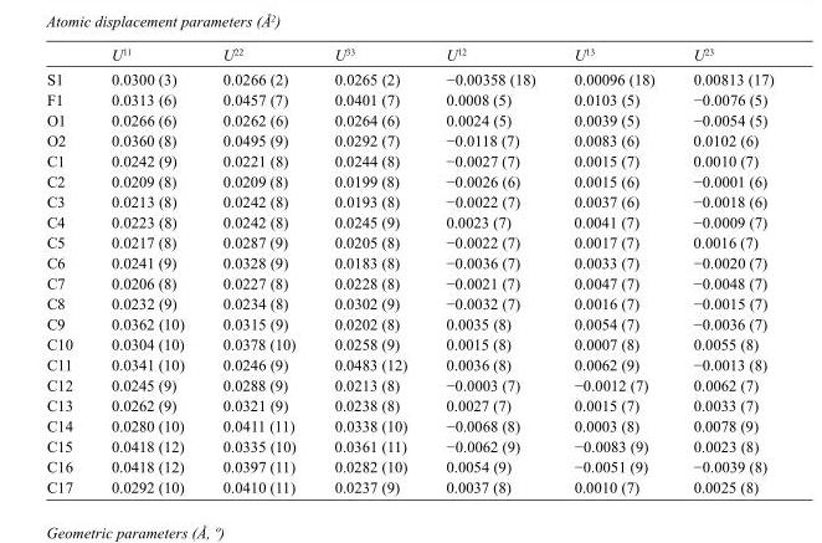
<table><thead><tr><td></td><td>U<sup>11</sup></td><td>U<sup>22</sup></td><td>U<sup>33</sup></td><td>U<sup>12</sup></td><td>U<sup>13</sup></td><td>U<sup>23</sup></td></tr></thead><tbody><tr><td>S1</td><td>0.0300 (3)</td><td>0.0266 (2)</td><td>0.0265 (2)</td><td>−0.00358 (18)</td><td>0.00096 (18)</td><td>0.00813 (17)</td></tr><tr><td>F1</td><td>0.0313 (6)</td><td>0.0457 (7)</td><td>0.0401 (7)</td><td>0.0008 (5)</td><td>0.0103 (5)</td><td>−0.0076 (5)</td></tr><tr><td>O1</td><td>0.0266 (6)</td><td>0.0262 (6)</td><td>0.0264 (6)</td><td>0.0024 (5)</td><td>0.0039 (5)</td><td>−0.0054 (5)</td></tr><tr><td>O2</td><td>0.0360 (8)</td><td>0.0495 (9)</td><td>0.0292 (7)</td><td>−0.0118 (7)</td><td>0.0083 (6)</td><td>0.0102 (6)</td></tr><tr><td>C1</td><td>0.0242 (9)</td><td>0.0221 (8)</td><td>0.0244 (8)</td><td>−0.0027 (7)</td><td>0.0015 (7)</td><td>0.0010 (7)</td></tr><tr><td>C2</td><td>0.0209 (8)</td><td>0.0209 (8)</td><td>0.0199 (8)</td><td>−0.0026 (6)</td><td>0.0015 (6)</td><td>−0.0001 (6)</td></tr><tr><td>C3</td><td>0.0213 (8)</td><td>0.0242 (8)</td><td>0.0193 (8)</td><td>−0.0022 (7)</td><td>0.0037 (6)</td><td>−0.0018 (6)</td></tr><tr><td>C4</td><td>0.0223 (8)</td><td>0.0242 (8)</td><td>0.0245 (9)</td><td>0.0023 (7)</td><td>0.0041 (7)</td><td>−0.0009 (7)</td></tr><tr><td>C5</td><td>0.0217 (8)</td><td>0.0287 (9)</td><td>0.0205 (8)</td><td>−0.0022 (7)</td><td>0.0017 (7)</td><td>0.0016 (7)</td></tr><tr><td>C6</td><td>0.0241 (9)</td><td>0.0328 (9)</td><td>0.0183 (8)</td><td>−0.0036 (7)</td><td>0.0033 (7)</td><td>−0.0020 (7)</td></tr><tr><td>C7</td><td>0.0206 (8)</td><td>0.0227 (8)</td><td>0.0228 (8)</td><td>−0.0021 (7)</td><td>0.0047 (7)</td><td>−0.0048 (7)</td></tr><tr><td>C8</td><td>0.0232 (9)</td><td>0.0234 (8)</td><td>0.0302 (9)</td><td>−0.0032 (7)</td><td>0.0016 (7)</td><td>−0.0015 (7)</td></tr><tr><td>C9</td><td>0.0362 (10)</td><td>0.0315 (9)</td><td>0.0202 (8)</td><td>0.0035 (8)</td><td>0.0054 (7)</td><td>−0.0036 (7)</td></tr><tr><td>C10</td><td>0.0304 (10)</td><td>0.0378 (10)</td><td>0.0258 (9)</td><td>0.0015 (8)</td><td>0.0007 (8)</td><td>0.0055 (8)</td></tr><tr><td>C11</td><td>0.0341 (10)</td><td>0.0246 (9)</td><td>0.0483 (12)</td><td>0.0036 (8)</td><td>0.0062 (9)</td><td>−0.0013 (8)</td></tr><tr><td>C12</td><td>0.0245 (9)</td><td>0.0288 (9)</td><td>0.0213 (8)</td><td>−0.0003 (7)</td><td>−0.0012 (7)</td><td>0.0062 (7)</td></tr><tr><td>C13</td><td>0.0262 (9)</td><td>0.0321 (9)</td><td>0.0238 (8)</td><td>0.0027 (7)</td><td>0.0015 (7)</td><td>0.0033 (7)</td></tr><tr><td>C14</td><td>0.0280 (10)</td><td>0.0411 (11)</td><td>0.0338 (10)</td><td>−0.0068 (8)</td><td>0.0003 (8)</td><td>0.0078 (9)</td></tr><tr><td>C15</td><td>0.0418 (12)</td><td>0.0335 (10)</td><td>0.0361 (11)</td><td>−0.0062 (9)</td><td>−0.0083 (9)</td><td>0.0023 (8)</td></tr><tr><td>C16</td><td>0.0418 (12)</td><td>0.0397 (11)</td><td>0.0282 (10)</td><td>0.0054 (9)</td><td>−0.0051 (9)</td><td>−0.0039 (8)</td></tr><tr><td>C17</td><td>0.0292 (10)</td><td>0.0410 (11)</td><td>0.0237 (9)</td><td>0.0037 (8)</td><td>0.0010 (7)</td><td>0.0025 (8)</td></tr></tbody></table>